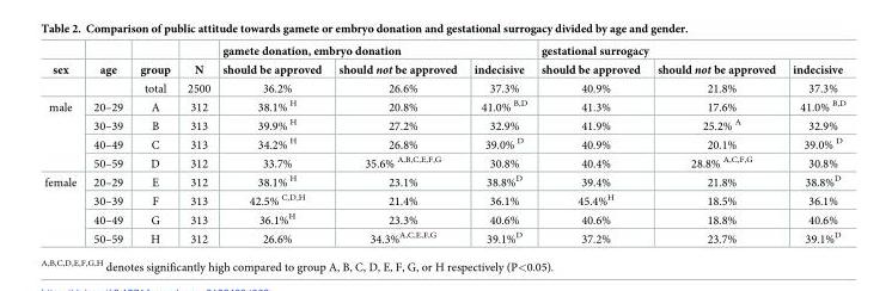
<table><thead><tr><td rowspan="2">sex</td><td rowspan="2">age</td><td rowspan="2">group</td><td rowspan="2">N</td><td colspan="3">gamete donation, embryo donation</td><td colspan="3">gestational surrogacy</td></tr><tr><td>should be approved</td><td>should not be approved</td><td>indecisive</td><td>should be approved</td><td>should not be approved</td><td>indecisive</td></tr></thead><tbody><tr><td></td><td></td><td>total</td><td>2500</td><td>36.2%</td><td>26.6%</td><td>37.3%</td><td>40.9%</td><td>21.8%</td><td>37.3%</td></tr><tr><td rowspan="4">male</td><td>20–29</td><td>A</td><td>312</td><td>38.1% <sup>H</sup></td><td>20.8%</td><td>41.0% <sup>B,D</sup></td><td>41.3%</td><td>17.6%</td><td>41.0% <sup>B,D</sup></td></tr><tr><td>30–39</td><td>B</td><td>313</td><td>39.9% <sup>H</sup></td><td>27.2%</td><td>32.9%</td><td>41.9%</td><td>25.2% <sup>A</sup></td><td>32.9%</td></tr><tr><td>40–49</td><td>C</td><td>313</td><td>34.2% <sup>H</sup></td><td>26.8%</td><td>39.0% <sup>D</sup></td><td>40.9%</td><td>20.1%</td><td>39.0% <sup>D</sup></td></tr><tr><td>50–59</td><td>D</td><td>312</td><td>33.7%</td><td>35.6% <sup>A,B,C,E,F,G</sup></td><td>30.8%</td><td>40.4%</td><td>28.8% <sup>A,C,F,G</sup></td><td>30.8%</td></tr><tr><td rowspan="4">female</td><td>20–29</td><td>E</td><td>312</td><td>38.1% <sup>H</sup></td><td>23.1%</td><td>38.8%<sup>D</sup></td><td>39.4%</td><td>21.8%</td><td>38.8%<sup>D</sup></td></tr><tr><td>30–39</td><td>F</td><td>313</td><td>42.5% <sup>C,D,H</sup></td><td>21.4%</td><td>36.1%</td><td>45.4%<sup>H</sup></td><td>18.5%</td><td>36.1%</td></tr><tr><td>40–49</td><td>G</td><td>313</td><td>36.1%<sup>H</sup></td><td>23.3%</td><td>40.6%</td><td>40.6%</td><td>18.8%</td><td>40.6%</td></tr><tr><td>50–59</td><td>H</td><td>312</td><td>26.6%</td><td>34.3%<sup>A,C,E,F,G</sup></td><td>39.1%<sup>D</sup></td><td>37.2%</td><td>23.7%</td><td>39.1%<sup>D</sup></td></tr></tbody></table>